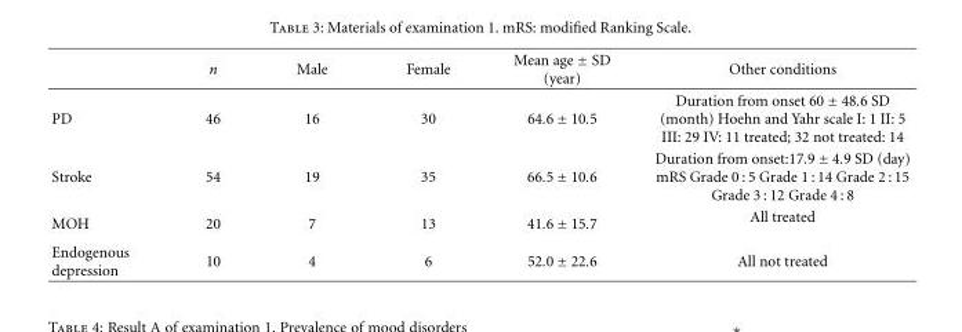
<table><thead><tr><td></td><td>n</td><td>Male</td><td>Female</td><td>Mean age ± SD (year)</td><td>Other conditions</td></tr></thead><tbody><tr><td>PD</td><td>46</td><td>16</td><td>30</td><td>64.6 ± 10.5</td><td>Duration from onset 60 ± 48.6 SD (month) Hoehn and Yahr scale I: 1 II: 5 III: 29 IV: 11 treated; 32 not treated: 14</td></tr><tr><td>Stroke</td><td>54</td><td>19</td><td>35</td><td>66.5 ± 10.6</td><td>Duration from onset:17.9 ± 4.9 SD (day) mRS Grade 0 : 5 Grade 1 : 14 Grade 2 : 15 Grade 3 : 12 Grade 4 : 8</td></tr><tr><td>MOH</td><td>20</td><td>7</td><td>13</td><td>41.6 ± 15.7</td><td>All treated</td></tr><tr><td>Endogenous depression</td><td>10</td><td>4</td><td>6</td><td>52.0 ± 22.6</td><td>All not treated</td></tr></tbody></table>